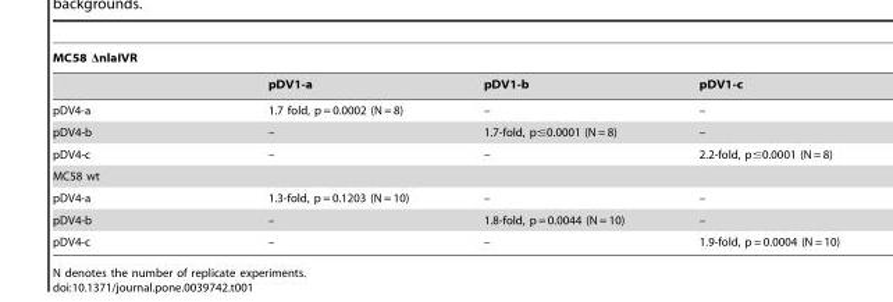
<table><thead><tr><td colspan="4">MC58 ΔnlaIVR</td></tr><tr><td></td><td>pDV1-a</td><td>pDV1-b</td><td>pDV1-c</td></tr></thead><tbody><tr><td>pDV4-a</td><td>1.7 fold, p = 0.0002 (N = 8)</td><td>–</td><td>–</td></tr><tr><td>pDV4-b</td><td>–</td><td>1.7-fold, p≤0.0001 (N = 8)</td><td>–</td></tr><tr><td>pDV4-c</td><td>–</td><td>–</td><td>2.2-fold, p≤0.0001 (N = 8)</td></tr><tr><td colspan="4">MC58 wt</td></tr><tr><td>pDV4-a</td><td>1.3-fold, p = 0.1203 (N = 10)</td><td>–</td><td>–</td></tr><tr><td>pDV4-b</td><td>–</td><td>1.8-fold, p = 0.0044 (N = 10)</td><td>–</td></tr><tr><td>pDV4-c</td><td>–</td><td>–</td><td>1.9-fold, p = 0.0004 (N = 10)</td></tr></tbody></table>